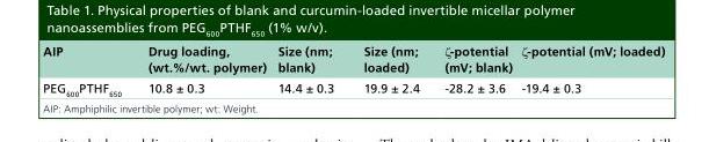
<table><thead><tr><td>AIP</td><td>Drug loading, (wt.%/wt. polymer)</td><td>Size (nm; blank)</td><td>Size (nm; loaded)</td><td>ζ-potential (mV; blank)</td><td>ζ-potential (mV; loaded)</td></tr></thead><tbody><tr><td>PEG<sub>600</sub>PTHF<sub>650</sub></td><td>10.8 ± 0.3</td><td>14.4 ± 0.3</td><td>19.9 ± 2.4</td><td>-28.2 ± 3.6</td><td>-19.4 ± 0.3</td></tr></tbody></table>